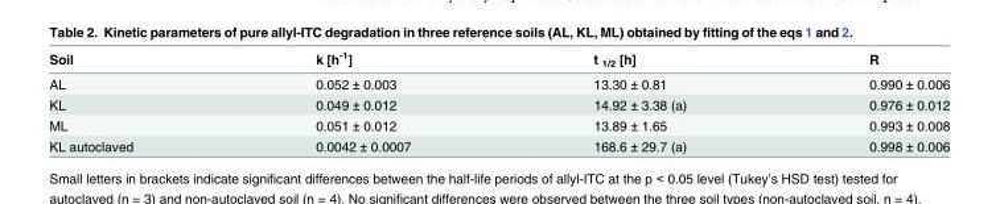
<table><thead><tr><td>Soil</td><td>k [h<sup>-1</sup>]</td><td>t <sub>1/2</sub> [h]</td><td>R</td></tr></thead><tbody><tr><td>AL</td><td>0.052 ± 0.003</td><td>13.30 ± 0.81</td><td>0.990 ± 0.006</td></tr><tr><td>KL</td><td>0.049 ± 0.012</td><td>14.92 ± 3.38 (a)</td><td>0.976 ± 0.012</td></tr><tr><td>ML</td><td>0.051 ± 0.012</td><td>13.89 ± 1.65</td><td>0.993 ± 0.008</td></tr><tr><td>KL autoclaved</td><td>0.0042 ± 0.0007</td><td>168.6 ± 29.7 (a)</td><td>0.998 ± 0.006</td></tr></tbody></table>